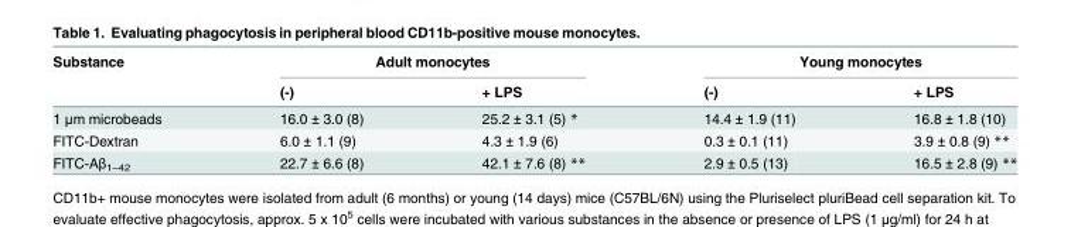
<table><thead><tr><td rowspan="2">Substance</td><td colspan="2">Adult monocytes</td><td colspan="2">Young monocytes</td></tr><tr><td>(-)</td><td>+ LPS</td><td>(-)</td><td>+ LPS</td></tr></thead><tbody><tr><td>1 μm microbeads</td><td>16.0 ± 3.0 (8)</td><td>25.2 ± 3.1 (5) *</td><td>14.4 ± 1.9 (11)</td><td>16.8 ± 1.8 (10)</td></tr><tr><td>FITC-Dextran</td><td>6.0 ± 1.1 (9)</td><td>4.3 ± 1.9 (6)</td><td>0.3 ± 0.1 (11)</td><td>3.9 ± 0.8 (9) **</td></tr><tr><td>FITC-Aβ<sub>1–42</sub></td><td>22.7 ± 6.6 (8)</td><td>42.1 ± 7.6 (8) **</td><td>2.9 ± 0.5 (13)</td><td>16.5 ± 2.8 (9) **</td></tr></tbody></table>